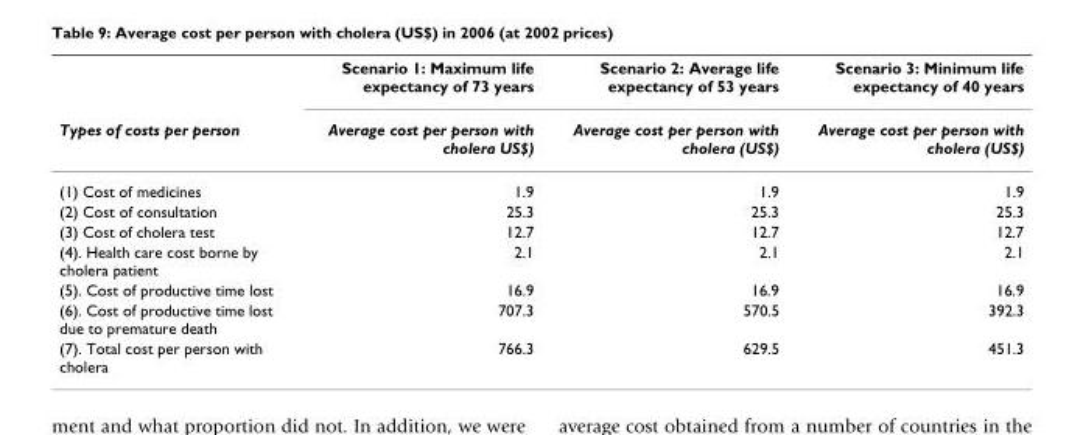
<table><thead><tr><td rowspan="2">Types of costs per person</td><td rowspan="2">Scenario 1: Maximum life expectancy of 73 years Average cost per person with cholera US$)</td><td rowspan="2">Scenario 2: Average life expectancy of 53 years Average cost per person with cholera (US$)</td><td rowspan="2">Scenario 3: Minimum life expectancy of 40 years Average cost per person with cholera (US$)</td></tr><tr></tr></thead><tbody><tr><td>(1) Cost of medicines</td><td>1.9</td><td>1.9</td><td>1.9</td></tr><tr><td>(2) Cost of consultation</td><td>25.3</td><td>25.3</td><td>25.3</td></tr><tr><td>(3) Cost of cholera test</td><td>12.7</td><td>12.7</td><td>12.7</td></tr><tr><td>(4). Health care cost borne by cholera patient</td><td>2.1</td><td>2.1</td><td>2.1</td></tr><tr><td>(5). Cost of productive time lost</td><td>16.9</td><td>16.9</td><td>16.9</td></tr><tr><td>(6). Cost of productive time lost due to premature death</td><td>707.3</td><td>570.5</td><td>392.3</td></tr><tr><td>(7). Total cost per person with cholera</td><td>766.3</td><td>629.5</td><td>451.3</td></tr></tbody></table>